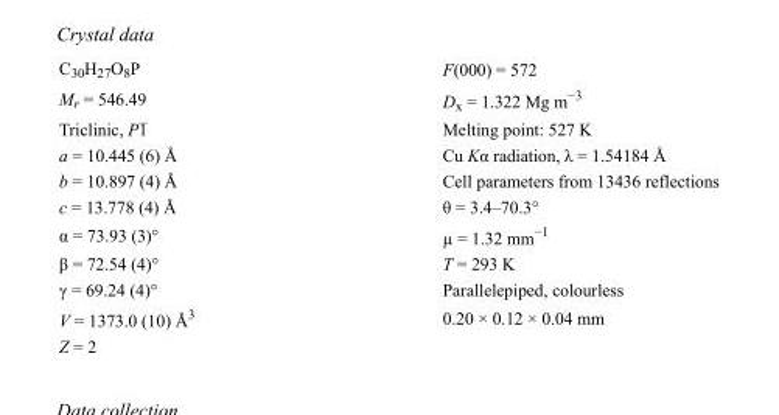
<table><tbody><tr><td>C<sub>30</sub>H<sub>27</sub>O<sub>8</sub>P</td><td>F(000) = 572</td></tr><tr><td>M<sub>r</sub> = 546.49</td><td>D<sub>x</sub> = 1.322 Mg m<sup>−3</sup></td></tr><tr><td>Triclinic, P1</td><td>Melting point: 527 K</td></tr><tr><td>a = 10.445 (6) Å</td><td>Cu Kα radiation, λ = 1.54184 Å</td></tr><tr><td>b = 10.897 (4) Å</td><td>Cell parameters from 13436 reflections</td></tr><tr><td>c = 13.778 (4) Å</td><td>θ = 3.4–70.3°</td></tr><tr><td>α = 73.93 (3)°</td><td>µ = 1.32 mm<sup>−1</sup></td></tr><tr><td>β = 72.54 (4)°</td><td>T = 293 K</td></tr><tr><td>γ = 69.24 (4)°</td><td>Parallelepiped, colourless</td></tr><tr><td>V = 1373.0 (10) Å<sup>3</sup></td><td>0.20 × 0.12 × 0.04 mm</td></tr><tr><td>Z = 2</td><td></td></tr></tbody></table>